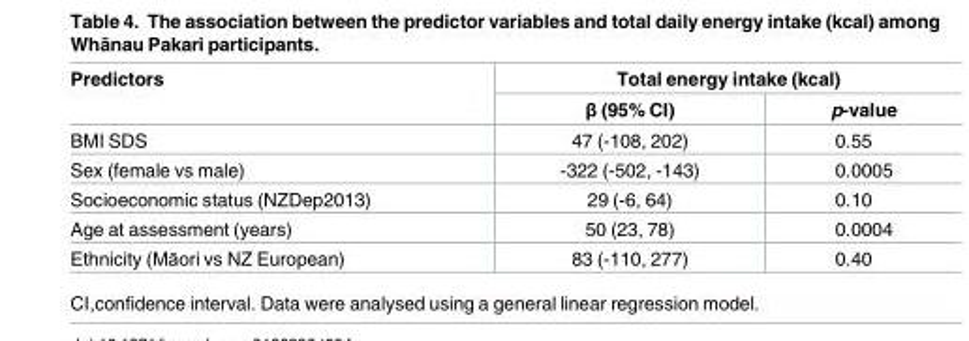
<table><thead><tr><td rowspan="2">Predictors</td><td colspan="2">Total energy intake (kcal)</td></tr><tr><td>β (95% CI)</td><td>p-value</td></tr></thead><tbody><tr><td>BMI SDS</td><td>47 (-108, 202)</td><td>0.55</td></tr><tr><td>Sex (female vs male)</td><td>-322 (-502, -143)</td><td>0.0005</td></tr><tr><td>Socioeconomic status (NZDep2013)</td><td>29 (-6, 64)</td><td>0.10</td></tr><tr><td>Age at assessment (years)</td><td>50 (23, 78)</td><td>0.0004</td></tr><tr><td>Ethnicity (Māori vs NZ European)</td><td>83 (-110, 277)</td><td>0.40</td></tr></tbody></table>